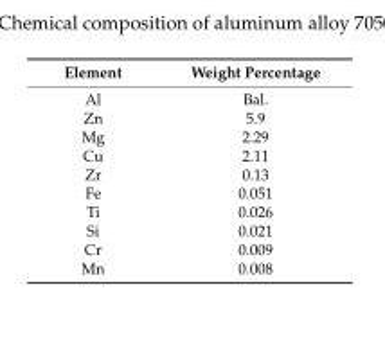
<table><thead><tr><td>Element</td><td>Weight Percentage</td></tr></thead><tbody><tr><td>Al</td><td>Bal.</td></tr><tr><td>Zn</td><td>5.9</td></tr><tr><td>Mg</td><td>2.29</td></tr><tr><td>Cu</td><td>2.11</td></tr><tr><td>Zr</td><td>0.13</td></tr><tr><td>Fe</td><td>0.051</td></tr><tr><td>Ti</td><td>0.026</td></tr><tr><td>Si</td><td>0.021</td></tr><tr><td>Cr</td><td>0.009</td></tr><tr><td>Mn</td><td>0.008</td></tr></tbody></table>